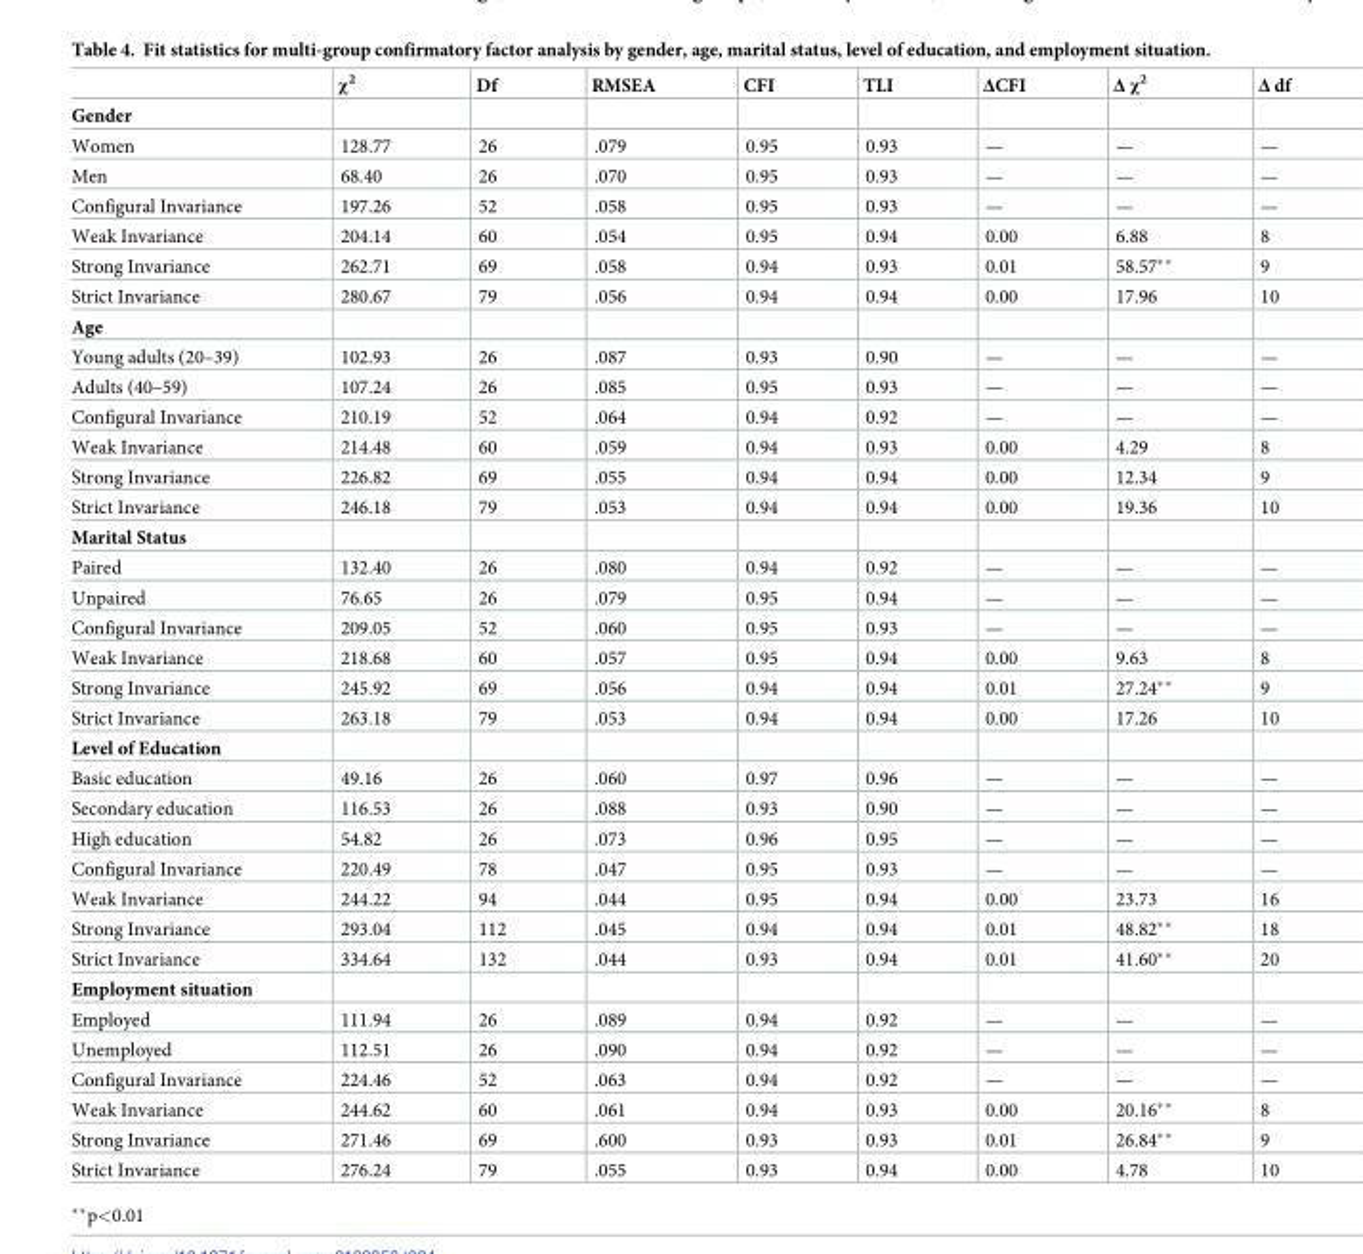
<table><thead><tr><td></td><td>χ<sup>2</sup></td><td>Df</td><td>RMSEA</td><td>CFI</td><td>TLI</td><td>ΔCFI</td><td>Δ χ<sup>2</sup></td><td>Δ df</td></tr></thead><tbody><tr><td colspan="9">Gender</td></tr><tr><td>Women</td><td>128.77</td><td>26</td><td>.079</td><td>0.95</td><td>0.93</td><td>—</td><td>—</td><td>—</td></tr><tr><td>Men</td><td>68.40</td><td>26</td><td>.070</td><td>0.95</td><td>0.93</td><td>—</td><td>—</td><td>—</td></tr><tr><td>Configural Invariance</td><td>197.26</td><td>52</td><td>.058</td><td>0.95</td><td>0.93</td><td>—</td><td>—</td><td>—</td></tr><tr><td>Weak Invariance</td><td>204.14</td><td>60</td><td>.054</td><td>0.95</td><td>0.94</td><td>0.00</td><td>6.88</td><td>8</td></tr><tr><td>Strong Invariance</td><td>262.71</td><td>69</td><td>.058</td><td>0.94</td><td>0.93</td><td>0.01</td><td>58.57**</td><td>9</td></tr><tr><td>Strict Invariance</td><td>280.67</td><td>79</td><td>.056</td><td>0.94</td><td>0.94</td><td>0.00</td><td>17.96</td><td>10</td></tr><tr><td colspan="9">Age</td></tr><tr><td>Young adults (20–39)</td><td>102.93</td><td>26</td><td>.087</td><td>0.93</td><td>0.90</td><td>—</td><td>—</td><td>—</td></tr><tr><td>Adults (40–59)</td><td>107.24</td><td>26</td><td>.085</td><td>0.95</td><td>0.93</td><td>—</td><td>—</td><td>—</td></tr><tr><td>Configural Invariance</td><td>210.19</td><td>52</td><td>.064</td><td>0.94</td><td>0.92</td><td>—</td><td>—</td><td>—</td></tr><tr><td>Weak Invariance</td><td>214.48</td><td>60</td><td>.059</td><td>0.94</td><td>0.93</td><td>0.00</td><td>4.29</td><td>8</td></tr><tr><td>Strong Invariance</td><td>226.82</td><td>69</td><td>.055</td><td>0.94</td><td>0.94</td><td>0.00</td><td>12.34</td><td>9</td></tr><tr><td>Strict Invariance</td><td>246.18</td><td>79</td><td>.053</td><td>0.94</td><td>0.94</td><td>0.00</td><td>19.36</td><td>10</td></tr><tr><td colspan="9">Marital Status</td></tr><tr><td>Paired</td><td>132.40</td><td>26</td><td>.080</td><td>0.94</td><td>0.92</td><td>—</td><td>—</td><td>—</td></tr><tr><td>Unpaired</td><td>76.65</td><td>26</td><td>.079</td><td>0.95</td><td>0.94</td><td>—</td><td>—</td><td>—</td></tr><tr><td>Configural Invariance</td><td>209.05</td><td>52</td><td>.060</td><td>0.95</td><td>0.93</td><td>—</td><td>—</td><td>—</td></tr><tr><td>Weak Invariance</td><td>218.68</td><td>60</td><td>.057</td><td>0.95</td><td>0.94</td><td>0.00</td><td>9.63</td><td>8</td></tr><tr><td>Strong Invariance</td><td>245.92</td><td>69</td><td>.056</td><td>0.94</td><td>0.94</td><td>0.01</td><td>27.24**</td><td>9</td></tr><tr><td>Strict Invariance</td><td>263.18</td><td>79</td><td>.053</td><td>0.94</td><td>0.94</td><td>0.00</td><td>17.26</td><td>10</td></tr><tr><td colspan="9">Level of Education</td></tr><tr><td>Basic education</td><td>49.16</td><td>26</td><td>.060</td><td>0.97</td><td>0.96</td><td>—</td><td>—</td><td>—</td></tr><tr><td>Secondary education</td><td>116.53</td><td>26</td><td>.088</td><td>0.93</td><td>0.90</td><td>—</td><td>—</td><td>—</td></tr><tr><td>High education</td><td>54.82</td><td>26</td><td>.073</td><td>0.96</td><td>0.95</td><td>—</td><td>—</td><td>—</td></tr><tr><td>Configural Invariance</td><td>220.49</td><td>78</td><td>.047</td><td>0.95</td><td>0.93</td><td>—</td><td>—</td><td>—</td></tr><tr><td>Weak Invariance</td><td>244.22</td><td>94</td><td>.044</td><td>0.95</td><td>0.94</td><td>0.00</td><td>23.73</td><td>16</td></tr><tr><td>Strong Invariance</td><td>293.04</td><td>112</td><td>.045</td><td>0.94</td><td>0.94</td><td>0.01</td><td>48.82**</td><td>18</td></tr><tr><td>Strict Invariance</td><td>334.64</td><td>132</td><td>.044</td><td>0.93</td><td>0.94</td><td>0.01</td><td>41.60**</td><td>20</td></tr><tr><td colspan="9">Employment situation</td></tr><tr><td>Employed</td><td>111.94</td><td>26</td><td>.089</td><td>0.94</td><td>0.92</td><td>—</td><td>—</td><td>—</td></tr><tr><td>Unemployed</td><td>112.51</td><td>26</td><td>.090</td><td>0.94</td><td>0.92</td><td>—</td><td>—</td><td>—</td></tr><tr><td>Configural Invariance</td><td>224.46</td><td>52</td><td>.063</td><td>0.94</td><td>0.92</td><td>—</td><td>—</td><td>—</td></tr><tr><td>Weak Invariance</td><td>244.62</td><td>60</td><td>.061</td><td>0.94</td><td>0.93</td><td>0.00</td><td>20.16**</td><td>8</td></tr><tr><td>Strong Invariance</td><td>271.46</td><td>69</td><td>.600</td><td>0.93</td><td>0.93</td><td>0.01</td><td>26.84**</td><td>9</td></tr><tr><td>Strict Invariance</td><td>276.24</td><td>79</td><td>.055</td><td>0.93</td><td>0.94</td><td>0.00</td><td>4.78</td><td>10</td></tr></tbody></table>